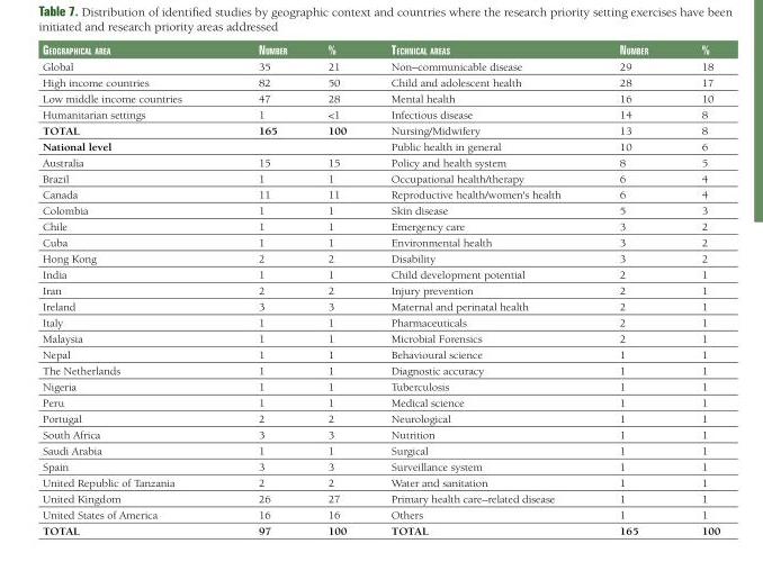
<table><thead><tr><td>GeoGraphical area</td><td>Number</td><td>%</td><td>TechNical areas</td><td>Number</td><td>%</td></tr></thead><tbody><tr><td>Global</td><td>35</td><td>21</td><td>Non–communicable disease</td><td>29</td><td>18</td></tr><tr><td>High income countries</td><td>82</td><td>50</td><td>Child and adolescent health</td><td>28</td><td>17</td></tr><tr><td>Low middle income countries</td><td>47</td><td>28</td><td>Mental health</td><td>16</td><td>10</td></tr><tr><td>Humanitarian settings</td><td>1</td><td>&lt;1</td><td>Infectious disease</td><td>14</td><td>8</td></tr><tr><td>TOTAL</td><td>165</td><td>100</td><td>Nursing/Midwifery</td><td>13</td><td>8</td></tr><tr><td>National level</td><td></td><td></td><td>Public health in general</td><td>10</td><td>6</td></tr><tr><td>Australia</td><td>15</td><td>15</td><td>Policy and health system</td><td>8</td><td>5</td></tr><tr><td>Brazil</td><td>1</td><td>1</td><td>Occupational health/therapy</td><td>6</td><td>4</td></tr><tr><td>Canada</td><td>11</td><td>11</td><td>Reproductive health/women&#x27;s health</td><td>6</td><td>4</td></tr><tr><td>Colombia</td><td>1</td><td>1</td><td>Skin disease</td><td>5</td><td>3</td></tr><tr><td>Chile</td><td>1</td><td>1</td><td>Emergency care</td><td>3</td><td>2</td></tr><tr><td>Cuba</td><td>1</td><td>1</td><td>Environmental health</td><td>3</td><td>2</td></tr><tr><td>Hong Kong</td><td>2</td><td>2</td><td>Disability</td><td>3</td><td>2</td></tr><tr><td>India</td><td>1</td><td>1</td><td>Child development potential</td><td>2</td><td>1</td></tr><tr><td>Iran</td><td>2</td><td>2</td><td>Injury prevention</td><td>2</td><td>1</td></tr><tr><td>Ireland</td><td>3</td><td>3</td><td>Maternal and perinatal health</td><td>2</td><td>1</td></tr><tr><td>Italy</td><td>1</td><td>1</td><td>Pharmaceuticals</td><td>2</td><td>1</td></tr><tr><td>Malaysia</td><td>1</td><td>1</td><td>Microbial Forensics</td><td>2</td><td>1</td></tr><tr><td>Nepal</td><td>1</td><td>1</td><td>Behavioural science</td><td>1</td><td>1</td></tr><tr><td>The Netherlands</td><td>1</td><td>1</td><td>Diagnostic accuracy</td><td>1</td><td>1</td></tr><tr><td>Nigeria</td><td>1</td><td>1</td><td>Tuberculosis</td><td>1</td><td>1</td></tr><tr><td>Peru</td><td>1</td><td>1</td><td>Medical science</td><td>1</td><td>1</td></tr><tr><td>Portugal</td><td>2</td><td>2</td><td>Neurological</td><td>1</td><td>1</td></tr><tr><td>South Africa</td><td>3</td><td>3</td><td>Nutrition</td><td>1</td><td>1</td></tr><tr><td>Saudi Arabia</td><td>1</td><td>1</td><td>Surgical</td><td>1</td><td>1</td></tr><tr><td>Spain</td><td>3</td><td>3</td><td>Surveillance system</td><td>1</td><td>1</td></tr><tr><td>United Republic of Tanzania</td><td>2</td><td>2</td><td>Water and sanitation</td><td>1</td><td>1</td></tr><tr><td>United Kingdom</td><td>26</td><td>27</td><td>Primary health care–related disease</td><td>1</td><td>1</td></tr><tr><td>United States of America</td><td>16</td><td>16</td><td>Others</td><td>1</td><td>1</td></tr><tr><td>TOTAL</td><td>97</td><td>100</td><td>TOTAL</td><td>165</td><td>100</td></tr></tbody></table>